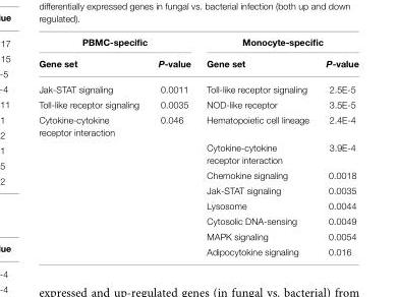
<table><thead><tr><td colspan="2">PBMC-specific</td><td colspan="2">Monocyte-specific</td></tr><tr><td>Gene set</td><td>P-value</td><td>Gene set</td><td>P-value</td></tr></thead><tbody><tr><td>Jak-STAT signaling</td><td>0.0011</td><td>Toll-like receptor signaling</td><td>2.5E-5</td></tr><tr><td>Toll-like receptor signaling</td><td>0.0035</td><td>NOD-like receptor</td><td>3.5E-5</td></tr><tr><td rowspan="8">Cytokine-cytokine receptor interaction</td><td>0.046</td><td>Hematopoietic cell lineage</td><td>2.4E-4</td></tr><tr><td></td><td>Cytokine-cytokine receptor interaction</td><td>3.9E-4</td></tr><tr><td></td><td>Chemokine signaling</td><td>0.0018</td></tr><tr><td></td><td>Jak-STAT signaling</td><td>0.0035</td></tr><tr><td></td><td>Lysosome</td><td>0.0044</td></tr><tr><td></td><td>Cytosolic DNA-sensing</td><td>0.0049</td></tr><tr><td></td><td>MAPK signaling</td><td>0.0054</td></tr><tr><td></td><td>Adipocytokine signaling</td><td>0.016</td></tr></tbody></table>